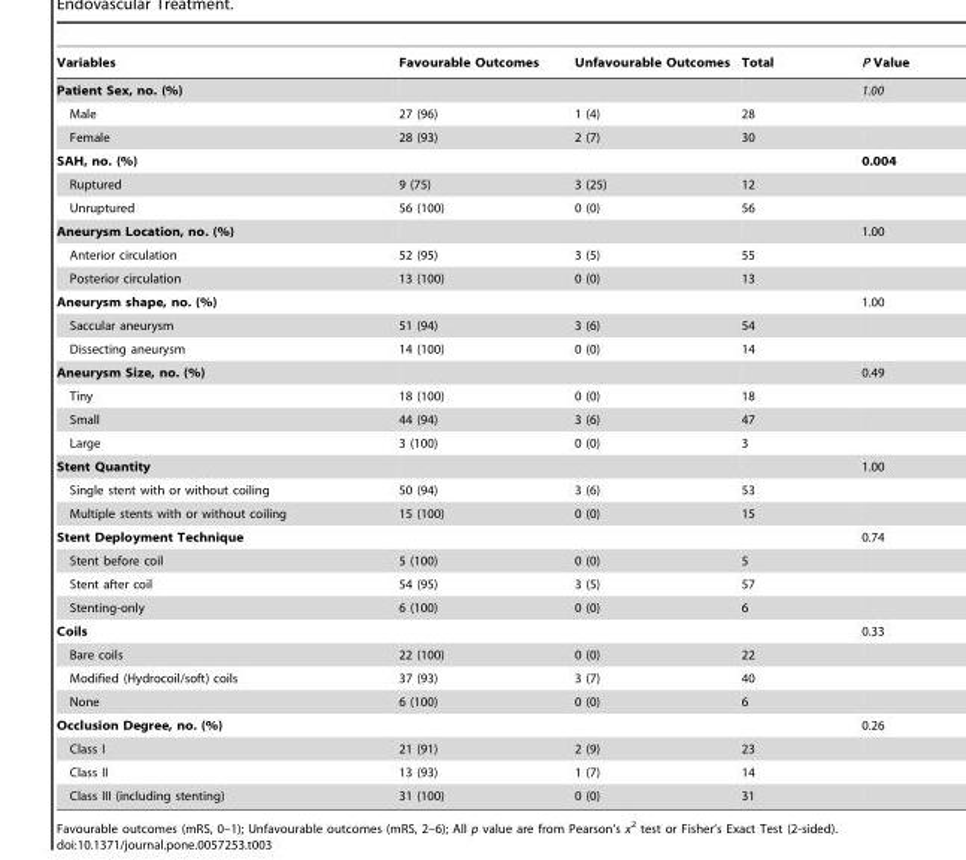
<table><thead><tr><td>Variables</td><td>Favourable Outcomes</td><td>Unfavourable Outcomes</td><td>Total</td><td>P Value</td></tr></thead><tbody><tr><td>Patient Sex, no. (%)</td><td></td><td></td><td></td><td>1.00</td></tr><tr><td>Male</td><td>27 (96)</td><td>1 (4)</td><td>28</td><td></td></tr><tr><td>Female</td><td>28 (93)</td><td>2 (7)</td><td>30</td><td></td></tr><tr><td>SAH, no. (%)</td><td></td><td></td><td></td><td>0.004</td></tr><tr><td>Ruptured</td><td>9 (75)</td><td>3 (25)</td><td>12</td><td></td></tr><tr><td>Unruptured</td><td>56 (100)</td><td>0 (0)</td><td>56</td><td></td></tr><tr><td>Aneurysm Location, no. (%)</td><td></td><td></td><td></td><td>1.00</td></tr><tr><td>Anterior circulation</td><td>52 (95)</td><td>3 (5)</td><td>55</td><td></td></tr><tr><td>Posterior circulation</td><td>13 (100)</td><td>0 (0)</td><td>13</td><td></td></tr><tr><td>Aneurysm shape, no. (%)</td><td></td><td></td><td></td><td>1.00</td></tr><tr><td>Saccular aneurysm</td><td>51 (94)</td><td>3 (6)</td><td>54</td><td></td></tr><tr><td>Dissecting aneurysm</td><td>14 (100)</td><td>0 (0)</td><td>14</td><td></td></tr><tr><td>Aneurysm Size, no. (%)</td><td></td><td></td><td></td><td>0.49</td></tr><tr><td>Tiny</td><td>18 (100)</td><td>0 (0)</td><td>18</td><td></td></tr><tr><td>Small</td><td>44 (94)</td><td>3 (6)</td><td>47</td><td></td></tr><tr><td>Large</td><td>3 (100)</td><td>0 (0)</td><td>3</td><td></td></tr><tr><td>Stent Quantity</td><td></td><td></td><td></td><td>1.00</td></tr><tr><td>Single stent with or without coiling</td><td>50 (94)</td><td>3 (6)</td><td>53</td><td></td></tr><tr><td>Multiple stents with or without coiling</td><td>15 (100)</td><td>0 (0)</td><td>15</td><td></td></tr><tr><td>Stent Deployment Technique</td><td></td><td></td><td></td><td>0.74</td></tr><tr><td>Stent before coil</td><td>5 (100)</td><td>0 (0)</td><td>5</td><td></td></tr><tr><td>Stent after coil</td><td>54 (95)</td><td>3 (5)</td><td>57</td><td></td></tr><tr><td>Stenting-only</td><td>6 (100)</td><td>0 (0)</td><td>6</td><td></td></tr><tr><td>Coils</td><td></td><td></td><td></td><td>0.33</td></tr><tr><td>Bare coils</td><td>22 (100)</td><td>0 (0)</td><td>22</td><td></td></tr><tr><td>Modified (Hydrocoil/soft) coils</td><td>37 (93)</td><td>3 (7)</td><td>40</td><td></td></tr><tr><td>None</td><td>6 (100)</td><td>0 (0)</td><td>6</td><td></td></tr><tr><td>Occlusion Degree, no. (%)</td><td></td><td></td><td></td><td>0.26</td></tr><tr><td>Class I</td><td>21 (91)</td><td>2 (9)</td><td>23</td><td></td></tr><tr><td>Class II</td><td>13 (93)</td><td>1 (7)</td><td>14</td><td></td></tr><tr><td>Class III (including stenting)</td><td>31 (100)</td><td>0 (0)</td><td>31</td><td></td></tr></tbody></table>